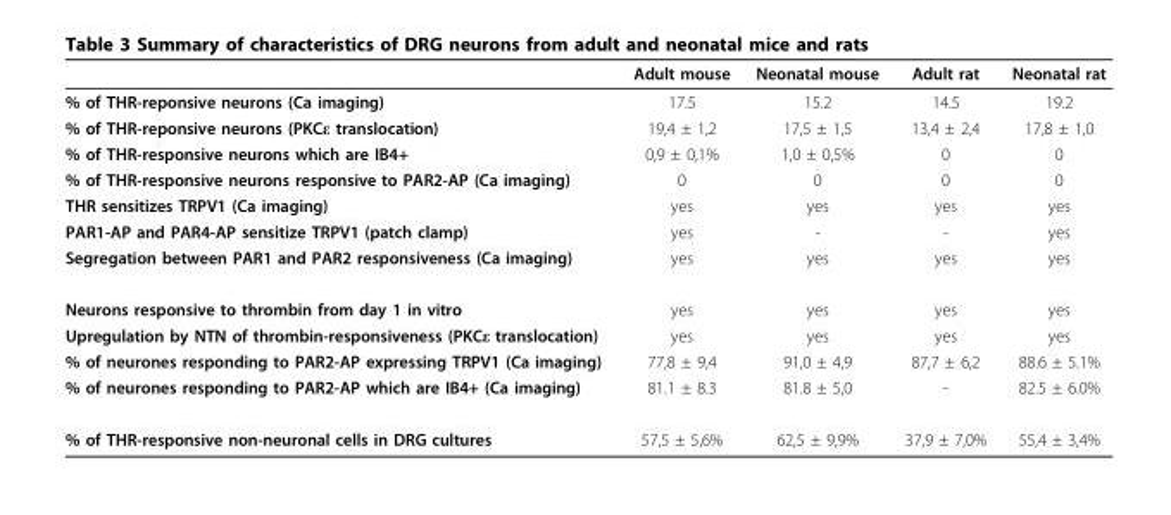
<table><thead><tr><td></td><td>Adult mouse</td><td>Neonatal mouse</td><td>Adult rat</td><td>Neonatal rat</td></tr></thead><tbody><tr><td>% of THR-reponsive neurons (Ca imaging)</td><td>17.5</td><td>15.2</td><td>14.5</td><td>19.2</td></tr><tr><td>% of THR-reponsive neurons (PKCε translocation)</td><td>19,4 ± 1,2</td><td>17,5 ± 1,5</td><td>13,4 ± 2,4</td><td>17,8 ± 1,0</td></tr><tr><td>% of THR-responsive neurons which are IB4+</td><td>0,9 ± 0,1%</td><td>1,0 ± 0,5%</td><td>0</td><td>0</td></tr><tr><td>% of THR-responsive neurons responsive to PAR2-AP (Ca imaging)</td><td>0</td><td>0</td><td>0</td><td>0</td></tr><tr><td>THR sensitizes TRPV1 (Ca imaging)</td><td>yes</td><td>yes</td><td>yes</td><td>yes</td></tr><tr><td>PAR1-AP and PAR4-AP sensitize TRPV1 (patch clamp)</td><td>yes</td><td>-</td><td>-</td><td>yes</td></tr><tr><td>Segregation between PAR1 and PAR2 responsiveness (Ca imaging)</td><td>yes</td><td>yes</td><td>yes</td><td>yes</td></tr><tr><td>Neurons responsive to thrombin from day 1 in vitro</td><td>yes</td><td>yes</td><td>yes</td><td>yes</td></tr><tr><td>Upregulation by NTN of thrombin-responsiveness (PKCε translocation)</td><td>yes</td><td>yes</td><td>yes</td><td>yes</td></tr><tr><td>% of neurones responding to PAR2-AP expressing TRPV1 (Ca imaging)</td><td>77,8 ± 9,4</td><td>91,0 ± 4,9</td><td>87,7 ± 6,2</td><td>88.6 ± 5.1%</td></tr><tr><td>% of neurones responding to PAR2-AP which are IB4+ (Ca imaging)</td><td>81.1 ± 8.3</td><td>81.8 ± 5,0</td><td>-</td><td>82.5 ± 6.0%</td></tr><tr><td>% of THR-responsive non-neuronal cells in DRG cultures</td><td>57,5 ± 5,6%</td><td>62,5 ± 9,9%</td><td>37,9 ± 7,0%</td><td>55,4 ± 3,4%</td></tr></tbody></table>